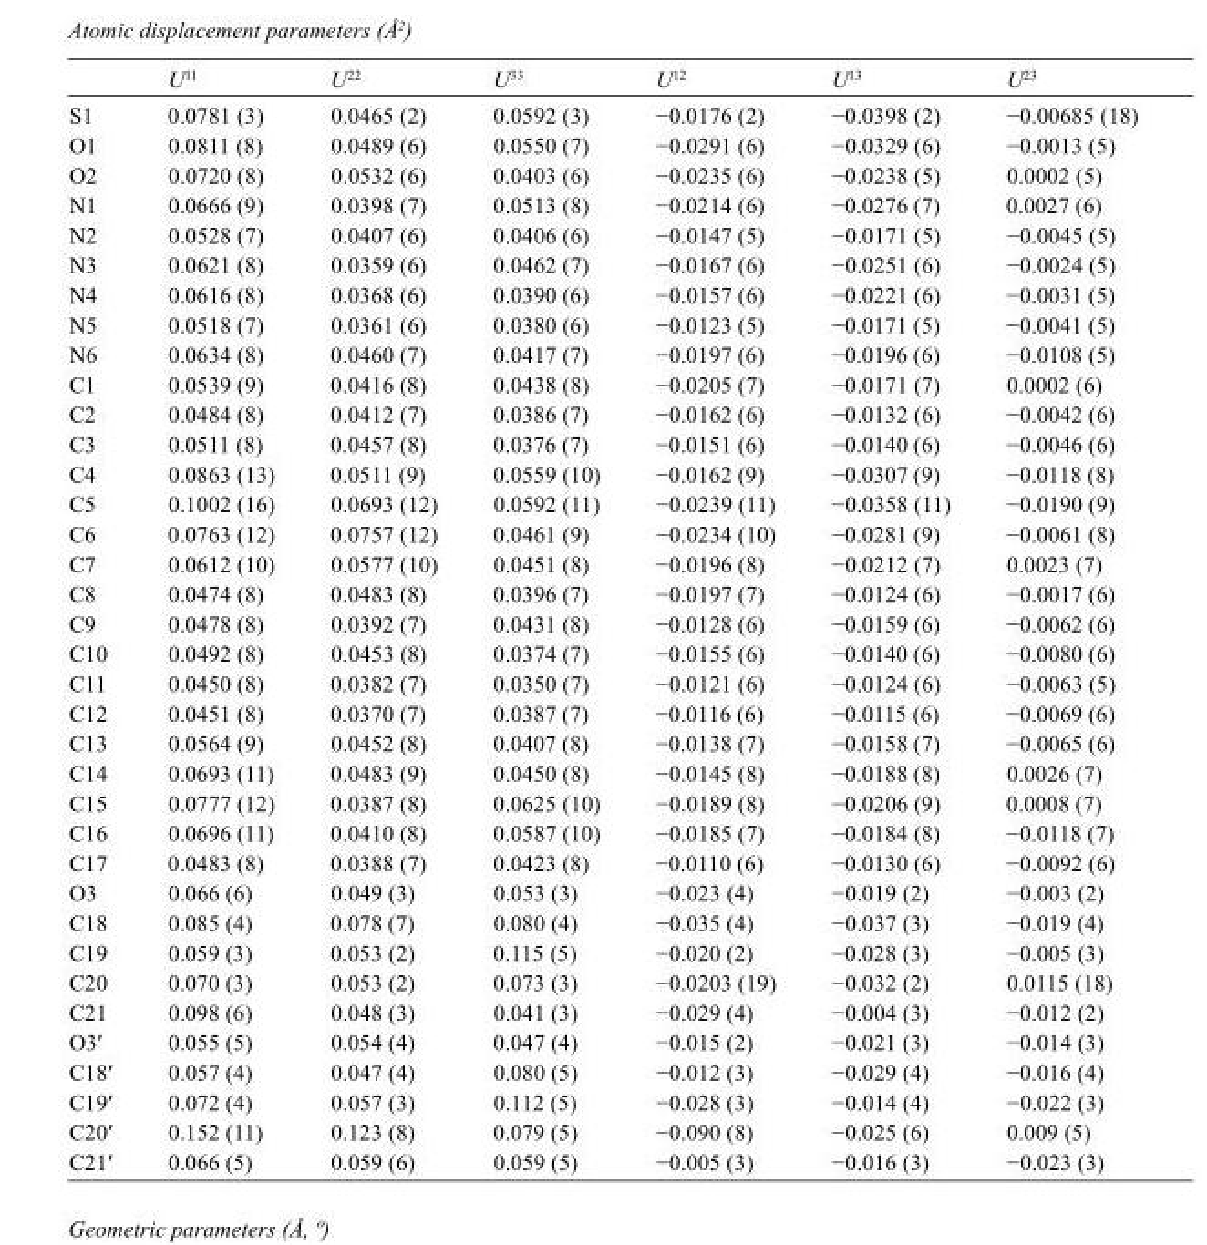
<table><thead><tr><td></td><td>U<sup>11</sup></td><td>U<sup>22</sup></td><td>U<sup>33</sup></td><td>U<sup>12</sup></td><td>U<sup>13</sup></td><td>U<sup>23</sup></td></tr></thead><tbody><tr><td>S1</td><td>0.0781 (3)</td><td>0.0465 (2)</td><td>0.0592 (3)</td><td>−0.0176 (2)</td><td>−0.0398 (2)</td><td>−0.00685 (18)</td></tr><tr><td>O1</td><td>0.0811 (8)</td><td>0.0489 (6)</td><td>0.0550 (7)</td><td>−0.0291 (6)</td><td>−0.0329 (6)</td><td>−0.0013 (5)</td></tr><tr><td>O2</td><td>0.0720 (8)</td><td>0.0532 (6)</td><td>0.0403 (6)</td><td>−0.0235 (6)</td><td>−0.0238 (5)</td><td>0.0002 (5)</td></tr><tr><td>N1</td><td>0.0666 (9)</td><td>0.0398 (7)</td><td>0.0513 (8)</td><td>−0.0214 (6)</td><td>−0.0276 (7)</td><td>0.0027 (6)</td></tr><tr><td>N2</td><td>0.0528 (7)</td><td>0.0407 (6)</td><td>0.0406 (6)</td><td>−0.0147 (5)</td><td>−0.0171 (5)</td><td>−0.0045 (5)</td></tr><tr><td>N3</td><td>0.0621 (8)</td><td>0.0359 (6)</td><td>0.0462 (7)</td><td>−0.0167 (6)</td><td>−0.0251 (6)</td><td>−0.0024 (5)</td></tr><tr><td>N4</td><td>0.0616 (8)</td><td>0.0368 (6)</td><td>0.0390 (6)</td><td>−0.0157 (6)</td><td>−0.0221 (6)</td><td>−0.0031 (5)</td></tr><tr><td>N5</td><td>0.0518 (7)</td><td>0.0361 (6)</td><td>0.0380 (6)</td><td>−0.0123 (5)</td><td>−0.0171 (5)</td><td>−0.0041 (5)</td></tr><tr><td>N6</td><td>0.0634 (8)</td><td>0.0460 (7)</td><td>0.0417 (7)</td><td>−0.0197 (6)</td><td>−0.0196 (6)</td><td>−0.0108 (5)</td></tr><tr><td>C1</td><td>0.0539 (9)</td><td>0.0416 (8)</td><td>0.0438 (8)</td><td>−0.0205 (7)</td><td>−0.0171 (7)</td><td>0.0002 (6)</td></tr><tr><td>C2</td><td>0.0484 (8)</td><td>0.0412 (7)</td><td>0.0386 (7)</td><td>−0.0162 (6)</td><td>−0.0132 (6)</td><td>−0.0042 (6)</td></tr><tr><td>C3</td><td>0.0511 (8)</td><td>0.0457 (8)</td><td>0.0376 (7)</td><td>−0.0151 (6)</td><td>−0.0140 (6)</td><td>−0.0046 (6)</td></tr><tr><td>C4</td><td>0.0863 (13)</td><td>0.0511 (9)</td><td>0.0559 (10)</td><td>−0.0162 (9)</td><td>−0.0307 (9)</td><td>−0.0118 (8)</td></tr><tr><td>C5</td><td>0.1002 (16)</td><td>0.0693 (12)</td><td>0.0592 (11)</td><td>−0.0239 (11)</td><td>−0.0358 (11)</td><td>−0.0190 (9)</td></tr><tr><td>C6</td><td>0.0763 (12)</td><td>0.0757 (12)</td><td>0.0461 (9)</td><td>−0.0234 (10)</td><td>−0.0281 (9)</td><td>−0.0061 (8)</td></tr><tr><td>C7</td><td>0.0612 (10)</td><td>0.0577 (10)</td><td>0.0451 (8)</td><td>−0.0196 (8)</td><td>−0.0212 (7)</td><td>0.0023 (7)</td></tr><tr><td>C8</td><td>0.0474 (8)</td><td>0.0483 (8)</td><td>0.0396 (7)</td><td>−0.0197 (7)</td><td>−0.0124 (6)</td><td>−0.0017 (6)</td></tr><tr><td>C9</td><td>0.0478 (8)</td><td>0.0392 (7)</td><td>0.0431 (8)</td><td>−0.0128 (6)</td><td>−0.0159 (6)</td><td>−0.0062 (6)</td></tr><tr><td>C10</td><td>0.0492 (8)</td><td>0.0453 (8)</td><td>0.0374 (7)</td><td>−0.0155 (6)</td><td>−0.0140 (6)</td><td>−0.0080 (6)</td></tr><tr><td>C11</td><td>0.0450 (8)</td><td>0.0382 (7)</td><td>0.0350 (7)</td><td>−0.0121 (6)</td><td>−0.0124 (6)</td><td>−0.0063 (5)</td></tr><tr><td>C12</td><td>0.0451 (8)</td><td>0.0370 (7)</td><td>0.0387 (7)</td><td>−0.0116 (6)</td><td>−0.0115 (6)</td><td>−0.0069 (6)</td></tr><tr><td>C13</td><td>0.0564 (9)</td><td>0.0452 (8)</td><td>0.0407 (8)</td><td>−0.0138 (7)</td><td>−0.0158 (7)</td><td>−0.0065 (6)</td></tr><tr><td>C14</td><td>0.0693 (11)</td><td>0.0483 (9)</td><td>0.0450 (8)</td><td>−0.0145 (8)</td><td>−0.0188 (8)</td><td>0.0026 (7)</td></tr><tr><td>C15</td><td>0.0777 (12)</td><td>0.0387 (8)</td><td>0.0625 (10)</td><td>−0.0189 (8)</td><td>−0.0206 (9)</td><td>0.0008 (7)</td></tr><tr><td>C16</td><td>0.0696 (11)</td><td>0.0410 (8)</td><td>0.0587 (10)</td><td>−0.0185 (7)</td><td>−0.0184 (8)</td><td>−0.0118 (7)</td></tr><tr><td>C17</td><td>0.0483 (8)</td><td>0.0388 (7)</td><td>0.0423 (8)</td><td>−0.0110 (6)</td><td>−0.0130 (6)</td><td>−0.0092 (6)</td></tr><tr><td>O3</td><td>0.066 (6)</td><td>0.049 (3)</td><td>0.053 (3)</td><td>−0.023 (4)</td><td>−0.019 (2)</td><td>−0.003 (2)</td></tr><tr><td>C18</td><td>0.085 (4)</td><td>0.078 (7)</td><td>0.080 (4)</td><td>−0.035 (4)</td><td>−0.037 (3)</td><td>−0.019 (4)</td></tr><tr><td>C19</td><td>0.059 (3)</td><td>0.053 (2)</td><td>0.115 (5)</td><td>−0.020 (2)</td><td>−0.028 (3)</td><td>−0.005 (3)</td></tr><tr><td>C20</td><td>0.070 (3)</td><td>0.053 (2)</td><td>0.073 (3)</td><td>−0.0203 (19)</td><td>−0.032 (2)</td><td>0.0115 (18)</td></tr><tr><td>C21</td><td>0.098 (6)</td><td>0.048 (3)</td><td>0.041 (3)</td><td>−0.029 (4)</td><td>−0.004 (3)</td><td>−0.012 (2)</td></tr><tr><td>O3′</td><td>0.055 (5)</td><td>0.054 (4)</td><td>0.047 (4)</td><td>−0.015 (2)</td><td>−0.021 (3)</td><td>−0.014 (3)</td></tr><tr><td>C18′</td><td>0.057 (4)</td><td>0.047 (4)</td><td>0.080 (5)</td><td>−0.012 (3)</td><td>−0.029 (4)</td><td>−0.016 (4)</td></tr><tr><td>C19′</td><td>0.072 (4)</td><td>0.057 (3)</td><td>0.112 (5)</td><td>−0.028 (3)</td><td>−0.014 (4)</td><td>−0.022 (3)</td></tr><tr><td>C20′</td><td>0.152 (11)</td><td>0.123 (8)</td><td>0.079 (5)</td><td>−0.090 (8)</td><td>−0.025 (6)</td><td>0.009 (5)</td></tr><tr><td>C21′</td><td>0.066 (5)</td><td>0.059 (6)</td><td>0.059 (5)</td><td>−0.005 (3)</td><td>−0.016 (3)</td><td>−0.023 (3)</td></tr></tbody></table>